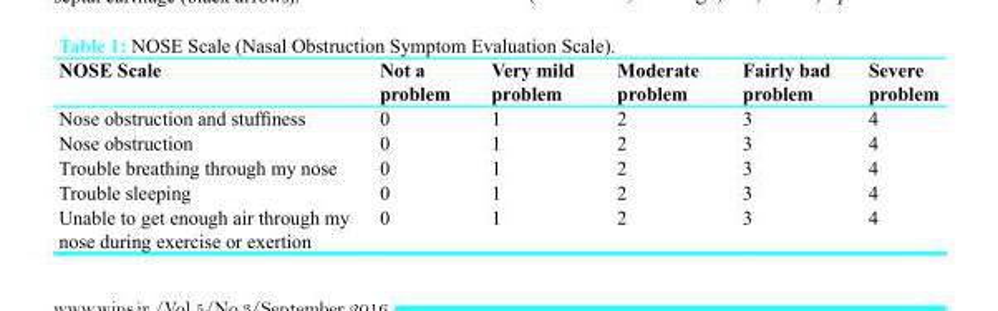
<table><thead><tr><td>NOSE Scale</td><td>Not a problem</td><td>Very mild problem</td><td>Moderate problem</td><td>Fairly bad problem</td><td>Severe problem</td></tr></thead><tbody><tr><td>Nose obstruction and stuffiness</td><td>0</td><td>1</td><td>2</td><td>3</td><td>4</td></tr><tr><td>Nose obstruction</td><td>0</td><td>1</td><td>2</td><td>3</td><td>4</td></tr><tr><td>Trouble breathing through my nose</td><td>0</td><td>1</td><td>2</td><td>3</td><td>4</td></tr><tr><td>Trouble sleeping</td><td>0</td><td>1</td><td>2</td><td>3</td><td>4</td></tr><tr><td>Unable to get enough air through my nose during exercise or exertion</td><td>0</td><td>1</td><td>2</td><td>3</td><td>4</td></tr></tbody></table>